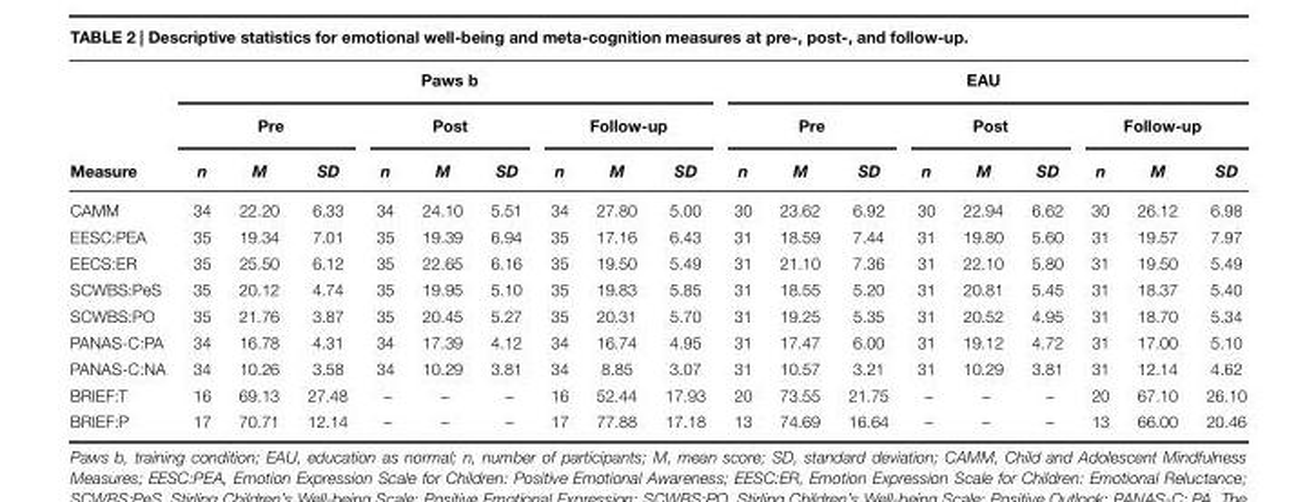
<table><thead><tr><td rowspan="3">Measure</td><td colspan="9">Paws b</td><td colspan="9">EAU</td></tr><tr><td colspan="3">Pre</td><td colspan="3">Post</td><td colspan="3">Follow-up</td><td colspan="3">Pre</td><td colspan="3">Post</td><td colspan="3">Follow-up</td></tr><tr><td>n</td><td>M</td><td>SD</td><td>n</td><td>M</td><td>SD</td><td>n</td><td>M</td><td>SD</td><td>n</td><td>M</td><td>SD</td><td>n</td><td>M</td><td>SD</td><td>n</td><td>M</td><td>SD</td></tr></thead><tbody><tr><td>CAMM</td><td>34</td><td>22.20</td><td>6.33</td><td>34</td><td>24.10</td><td>5.51</td><td>34</td><td>27.80</td><td>5.00</td><td>30</td><td>23.62</td><td>6.92</td><td>30</td><td>22.94</td><td>6.62</td><td>30</td><td>26.12</td><td>6.98</td></tr><tr><td>EESC:PEA</td><td>35</td><td>19.34</td><td>7.01</td><td>35</td><td>19.39</td><td>6.94</td><td>35</td><td>17.16</td><td>6.43</td><td>31</td><td>18.59</td><td>7.44</td><td>31</td><td>19.80</td><td>5.60</td><td>31</td><td>19.57</td><td>7.97</td></tr><tr><td>EECS:ER</td><td>35</td><td>25.50</td><td>6.12</td><td>35</td><td>22.65</td><td>6.16</td><td>35</td><td>19.50</td><td>5.49</td><td>31</td><td>21.10</td><td>7.36</td><td>31</td><td>22.10</td><td>5.80</td><td>31</td><td>19.50</td><td>5.49</td></tr><tr><td>SCWBS:PeS</td><td>35</td><td>20.12</td><td>4.74</td><td>35</td><td>19.95</td><td>5.10</td><td>35</td><td>19.83</td><td>5.85</td><td>31</td><td>18.55</td><td>5.20</td><td>31</td><td>20.81</td><td>5.45</td><td>31</td><td>18.37</td><td>5.40</td></tr><tr><td>SCWBS:PO</td><td>35</td><td>21.76</td><td>3.87</td><td>35</td><td>20.45</td><td>5.27</td><td>35</td><td>20.31</td><td>5.70</td><td>31</td><td>19.25</td><td>5.35</td><td>31</td><td>20.52</td><td>4.95</td><td>31</td><td>18.70</td><td>5.34</td></tr><tr><td>PANAS-C:PA</td><td>34</td><td>16.78</td><td>4.31</td><td>34</td><td>17.39</td><td>4.12</td><td>34</td><td>16.74</td><td>4.95</td><td>31</td><td>17.47</td><td>6.00</td><td>31</td><td>19.12</td><td>4.72</td><td>31</td><td>17.00</td><td>5.10</td></tr><tr><td>PANAS-C:NA</td><td>34</td><td>10.26</td><td>3.58</td><td>34</td><td>10.29</td><td>3.81</td><td>34</td><td>8.85</td><td>3.07</td><td>31</td><td>10.57</td><td>3.21</td><td>31</td><td>10.29</td><td>3.81</td><td>31</td><td>12.14</td><td>4.62</td></tr><tr><td>BRIEF:T</td><td>16</td><td>69.13</td><td>27.48</td><td>–</td><td>–</td><td>–</td><td>16</td><td>52.44</td><td>17.93</td><td>20</td><td>73.55</td><td>21.75</td><td>–</td><td>–</td><td>–</td><td>20</td><td>67.10</td><td>26.10</td></tr><tr><td>BRIEF:P</td><td>17</td><td>70.71</td><td>12.14</td><td>–</td><td>–</td><td>–</td><td>17</td><td>77.88</td><td>17.18</td><td>13</td><td>74.69</td><td>16.64</td><td>–</td><td>–</td><td>–</td><td>13</td><td>66.00</td><td>20.46</td></tr></tbody></table>